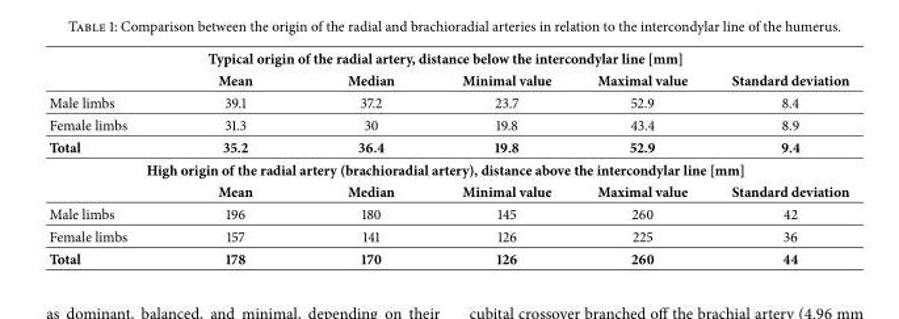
<table><thead><tr><td colspan="6">Typical origin of the radial artery, distance below the intercondylar line [mm]</td></tr><tr><td></td><td>Mean</td><td>Median</td><td>Minimal value</td><td>Maximal value</td><td>Standard deviation</td></tr></thead><tbody><tr><td>Male limbs</td><td>39.1</td><td>37.2</td><td>23.7</td><td>52.9</td><td>8.4</td></tr><tr><td>Female limbs</td><td>31.3</td><td>30</td><td>19.8</td><td>43.4</td><td>8.9</td></tr><tr><td>Total</td><td>35.2</td><td>36.4</td><td>19.8</td><td>52.9</td><td>9.4</td></tr><tr><td colspan="6">High origin of the radial artery (brachioradial artery), distance above the intercondylar line [mm]</td></tr><tr><td></td><td>Mean</td><td>Median</td><td>Minimal value</td><td>Maximal value</td><td>Standard deviation</td></tr><tr><td>Male limbs</td><td>196</td><td>180</td><td>145</td><td>260</td><td>42</td></tr><tr><td>Female limbs</td><td>157</td><td>141</td><td>126</td><td>225</td><td>36</td></tr><tr><td>Total</td><td>178</td><td>170</td><td>126</td><td>260</td><td>44</td></tr></tbody></table>